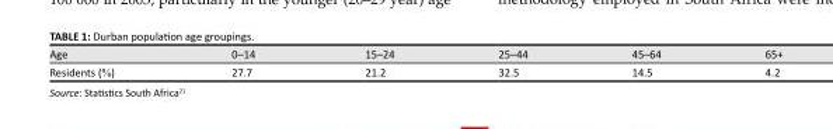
<table><thead><tr><td>Age</td><td>0–14</td><td>15–24</td><td>25–44</td><td>45–64</td><td>65+</td></tr></thead><tbody><tr><td>Residents (%)</td><td>27.7</td><td>21.2</td><td>32.5</td><td>14.5</td><td>4.2</td></tr></tbody></table>